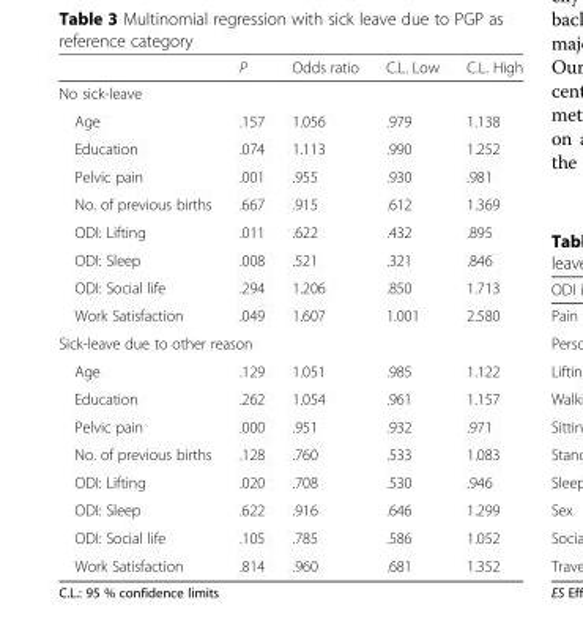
<table><thead><tr><td></td><td>P</td><td>Odds ratio</td><td>C.L. Low</td><td>C.L. High</td></tr></thead><tbody><tr><td colspan="5">No sick-leave</td></tr><tr><td>Age</td><td>.157</td><td>1.056</td><td>.979</td><td>1.138</td></tr><tr><td>Education</td><td>.074</td><td>1.113</td><td>.990</td><td>1.252</td></tr><tr><td>Pelvic pain</td><td>.001</td><td>.955</td><td>.930</td><td>.981</td></tr><tr><td>No. of previous births</td><td>.667</td><td>.915</td><td>.612</td><td>1.369</td></tr><tr><td>ODI: Lifting</td><td>.011</td><td>.622</td><td>.432</td><td>.895</td></tr><tr><td>ODI: Sleep</td><td>.008</td><td>.521</td><td>.321</td><td>.846</td></tr><tr><td>ODI: Social life</td><td>.294</td><td>1.206</td><td>.850</td><td>1.713</td></tr><tr><td>Work Satisfaction</td><td>.049</td><td>1.607</td><td>1.001</td><td>2.580</td></tr><tr><td colspan="5">Sick-leave due to other reason</td></tr><tr><td>Age</td><td>.129</td><td>1.051</td><td>.985</td><td>1.122</td></tr><tr><td>Education</td><td>.262</td><td>1.054</td><td>.961</td><td>1.157</td></tr><tr><td>Pelvic pain</td><td>.000</td><td>.951</td><td>.932</td><td>.971</td></tr><tr><td>No. of previous births</td><td>.128</td><td>.760</td><td>.533</td><td>1.083</td></tr><tr><td>ODI: Lifting</td><td>.020</td><td>.708</td><td>.530</td><td>.946</td></tr><tr><td>ODI: Sleep</td><td>.622</td><td>.916</td><td>.646</td><td>1.299</td></tr><tr><td>ODI: Social life</td><td>.105</td><td>.785</td><td>.586</td><td>1.052</td></tr><tr><td>Work Satisfaction</td><td>.814</td><td>.960</td><td>.681</td><td>1.352</td></tr></tbody></table>